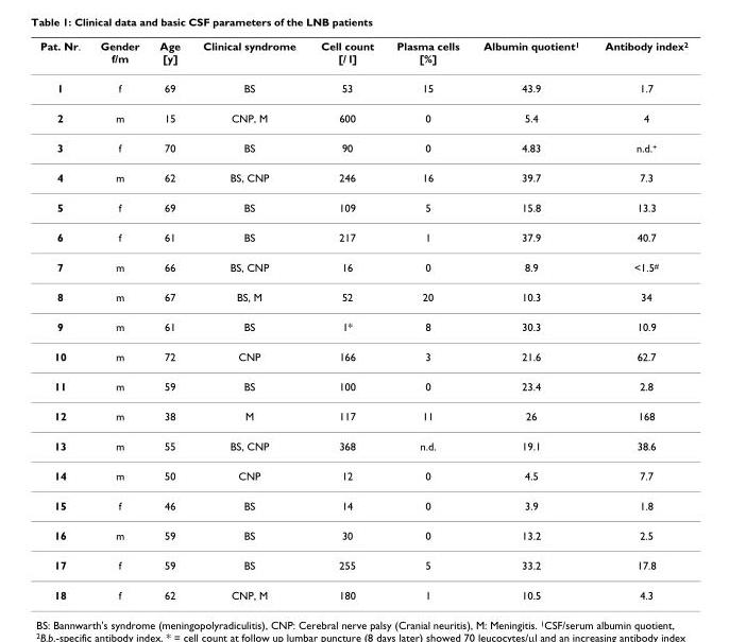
<table><thead><tr><td>Pat. Nr.</td><td>Gender f/m</td><td>Age [y]</td><td>Clinical syndrome</td><td>Cell count [/ l]</td><td>Plasma cells [%]</td><td>Albumin quotient<sup>1</sup></td><td>Antibody index<sup>2</sup></td></tr></thead><tbody><tr><td>1</td><td>f</td><td>69</td><td>BS</td><td>53</td><td>15</td><td>43.9</td><td>1.7</td></tr><tr><td>2</td><td>m</td><td>15</td><td>CNP, M</td><td>600</td><td>0</td><td>5.4</td><td>4</td></tr><tr><td>3</td><td>f</td><td>70</td><td>BS</td><td>90</td><td>0</td><td>4.83</td><td>n.d.<sup>+</sup></td></tr><tr><td>4</td><td>m</td><td>62</td><td>BS, CNP</td><td>246</td><td>16</td><td>39.7</td><td>7.3</td></tr><tr><td>5</td><td>f</td><td>69</td><td>BS</td><td>109</td><td>5</td><td>15.8</td><td>13.3</td></tr><tr><td>6</td><td>f</td><td>61</td><td>BS</td><td>217</td><td>1</td><td>37.9</td><td>40.7</td></tr><tr><td>7</td><td>m</td><td>66</td><td>BS, CNP</td><td>16</td><td>0</td><td>8.9</td><td>&lt;1.5<sup>#</sup></td></tr><tr><td>8</td><td>m</td><td>67</td><td>BS, M</td><td>52</td><td>20</td><td>10.3</td><td>34</td></tr><tr><td>9</td><td>m</td><td>61</td><td>BS</td><td>1*</td><td>8</td><td>30.3</td><td>10.9</td></tr><tr><td>10</td><td>m</td><td>72</td><td>CNP</td><td>166</td><td>3</td><td>21.6</td><td>62.7</td></tr><tr><td>11</td><td>m</td><td>59</td><td>BS</td><td>100</td><td>0</td><td>23.4</td><td>2.8</td></tr><tr><td>12</td><td>m</td><td>38</td><td>M</td><td>117</td><td>11</td><td>26</td><td>168</td></tr><tr><td>13</td><td>m</td><td>55</td><td>BS, CNP</td><td>368</td><td>n.d.</td><td>19.1</td><td>38.6</td></tr><tr><td>14</td><td>m</td><td>50</td><td>CNP</td><td>12</td><td>0</td><td>4.5</td><td>7.7</td></tr><tr><td>15</td><td>f</td><td>46</td><td>BS</td><td>14</td><td>0</td><td>3.9</td><td>1.8</td></tr><tr><td>16</td><td>m</td><td>59</td><td>BS</td><td>30</td><td>0</td><td>13.2</td><td>2.5</td></tr><tr><td>17</td><td>f</td><td>59</td><td>BS</td><td>255</td><td>5</td><td>33.2</td><td>17.8</td></tr><tr><td>18</td><td>f</td><td>62</td><td>CNP, M</td><td>180</td><td>1</td><td>10.5</td><td>4.3</td></tr></tbody></table>